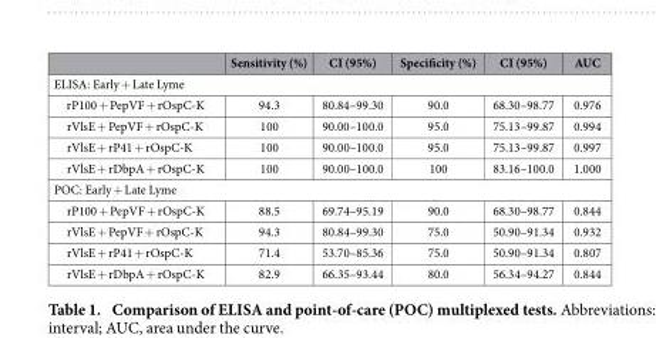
<table><thead><tr><td></td><td>Sensitivity (%)</td><td>CI (95%)</td><td>Specificity (%)</td><td>CI (95%)</td><td>AUC</td></tr></thead><tbody><tr><td colspan="6">ELISA: Early + Late Lyme</td></tr><tr><td>rP100 + PepVF + rOspC-K</td><td>94.3</td><td>80.84–99.30</td><td>90.0</td><td>68.30–98.77</td><td>0.976</td></tr><tr><td>rVlsE + PepVF + rOspC-K</td><td>100</td><td>90.00–100.0</td><td>95.0</td><td>75.13–99.87</td><td>0.994</td></tr><tr><td>rVlsE + rP41 + rOspC-K</td><td>100</td><td>90.00–100.0</td><td>95.0</td><td>75.13–99.87</td><td>0.997</td></tr><tr><td>rVlsE + rDbpA + rOspC-K</td><td>100</td><td>90.00–100.0</td><td>100</td><td>83.16–100.0</td><td>1.000</td></tr><tr><td colspan="6">POC: Early + Late Lyme</td></tr><tr><td>rP100 + PepVF + rOspC-K</td><td>88.5</td><td>69.74–95.19</td><td>90.0</td><td>68.30–98.77</td><td>0.844</td></tr><tr><td>rVlsE + PepVF + rOspC-K</td><td>94.3</td><td>80.84–99.30</td><td>75.0</td><td>50.90–91.34</td><td>0.932</td></tr><tr><td>rVlsE + rP41 + rOspC-K</td><td>71.4</td><td>53.70–85.36</td><td>75.0</td><td>50.90–91.34</td><td>0.807</td></tr><tr><td>rVlsE + rDbpA + rOspC-K</td><td>82.9</td><td>66.35–93.44</td><td>80.0</td><td>56.34–94.27</td><td>0.844</td></tr></tbody></table>